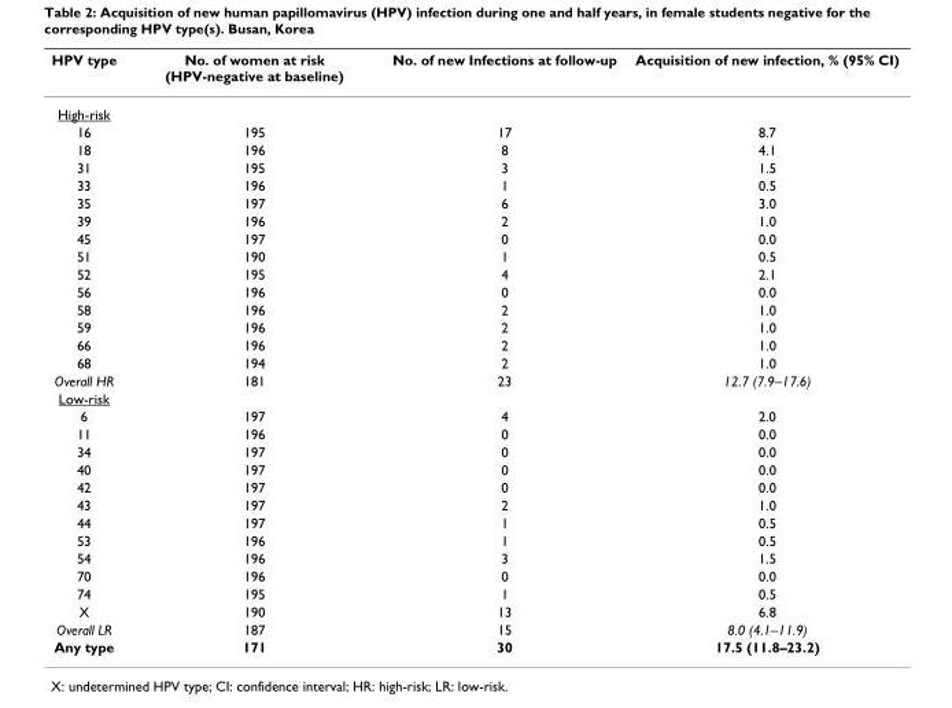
<table><thead><tr><td>HPV type</td><td>No. of women at risk (HPV-negative at baseline)</td><td>No. of new Infections at follow-up</td><td>Acquisition of new infection, % (95% CI)</td></tr></thead><tbody><tr><td colspan="4">High-risk</td></tr><tr><td>16</td><td>195</td><td>17</td><td>8.7</td></tr><tr><td>18</td><td>196</td><td>8</td><td>4.1</td></tr><tr><td>31</td><td>195</td><td>3</td><td>1.5</td></tr><tr><td>33</td><td>196</td><td>1</td><td>0.5</td></tr><tr><td>35</td><td>197</td><td>6</td><td>3.0</td></tr><tr><td>39</td><td>196</td><td>2</td><td>1.0</td></tr><tr><td>45</td><td>197</td><td>0</td><td>0.0</td></tr><tr><td>51</td><td>190</td><td>1</td><td>0.5</td></tr><tr><td>52</td><td>195</td><td>4</td><td>2.1</td></tr><tr><td>56</td><td>196</td><td>0</td><td>0.0</td></tr><tr><td>58</td><td>196</td><td>2</td><td>1.0</td></tr><tr><td>59</td><td>196</td><td>2</td><td>1.0</td></tr><tr><td>66</td><td>196</td><td>2</td><td>1.0</td></tr><tr><td>68</td><td>194</td><td>2</td><td>1.0</td></tr><tr><td>Overall HR</td><td>181</td><td>23</td><td>12.7 (7.9–17.6)</td></tr><tr><td colspan="4">Low-risk</td></tr><tr><td>6</td><td>197</td><td>4</td><td>2.0</td></tr><tr><td>11</td><td>196</td><td>0</td><td>0.0</td></tr><tr><td>34</td><td>197</td><td>0</td><td>0.0</td></tr><tr><td>40</td><td>197</td><td>0</td><td>0.0</td></tr><tr><td>42</td><td>197</td><td>0</td><td>0.0</td></tr><tr><td>43</td><td>197</td><td>2</td><td>1.0</td></tr><tr><td>44</td><td>197</td><td>1</td><td>0.5</td></tr><tr><td>53</td><td>196</td><td>1</td><td>0.5</td></tr><tr><td>54</td><td>196</td><td>3</td><td>1.5</td></tr><tr><td>70</td><td>196</td><td>0</td><td>0.0</td></tr><tr><td>74</td><td>195</td><td>1</td><td>0.5</td></tr><tr><td>X</td><td>190</td><td>13</td><td>6.8</td></tr><tr><td>Overall LR</td><td>187</td><td>15</td><td>8.0 (4.1–11.9)</td></tr><tr><td>Any type</td><td>171</td><td>30</td><td>17.5 (11.8–23.2)</td></tr></tbody></table>